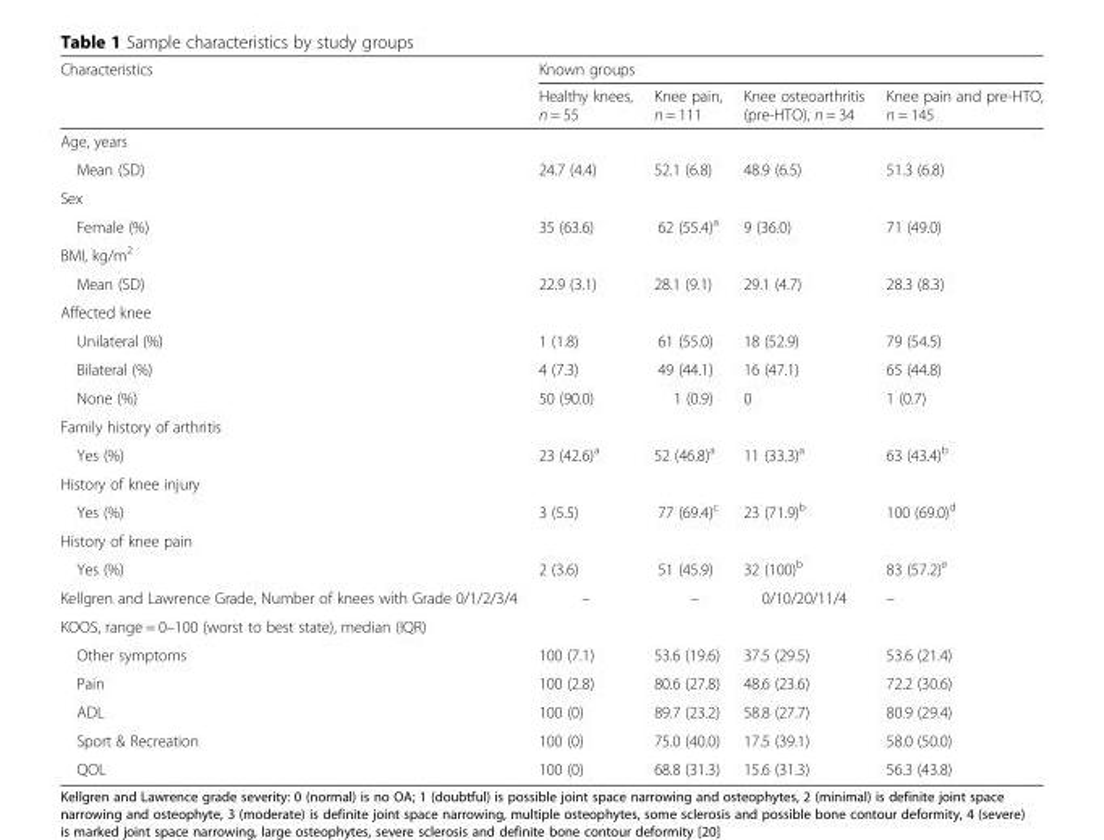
<table><thead><tr><td rowspan="2">Characteristics</td><td colspan="4">Known groups</td></tr><tr><td>Healthy knees, n = 55</td><td>Knee pain, n = 111</td><td>Knee osteoarthritis (pre-HTO), n = 34</td><td>Knee pain and pre-HTO, n = 145</td></tr></thead><tbody><tr><td colspan="5">Age, years</td></tr><tr><td>Mean (SD)</td><td>24.7 (4.4)</td><td>52.1 (6.8)</td><td>48.9 (6.5)</td><td>51.3 (6.8)</td></tr><tr><td colspan="5">Sex</td></tr><tr><td>Female (%)</td><td>35 (63.6)</td><td>62 (55.4)<sup>a</sup></td><td>9 (36.0)</td><td>71 (49.0)</td></tr><tr><td colspan="5">BMI, kg/m<sup>2</sup></td></tr><tr><td>Mean (SD)</td><td>22.9 (3.1)</td><td>28.1 (9.1)</td><td>29.1 (4.7)</td><td>28.3 (8.3)</td></tr><tr><td colspan="5">Affected knee</td></tr><tr><td>Unilateral (%)</td><td>1 (1.8)</td><td>61 (55.0)</td><td>18 (52.9)</td><td>79 (54.5)</td></tr><tr><td>Bilateral (%)</td><td>4 (7.3)</td><td>49 (44.1)</td><td>16 (47.1)</td><td>65 (44.8)</td></tr><tr><td>None (%)</td><td>50 (90.0)</td><td>1 (0.9)</td><td>0</td><td>1 (0.7)</td></tr><tr><td colspan="5">Family history of arthritis</td></tr><tr><td>Yes (%)</td><td>23 (42.6)<sup>a</sup></td><td>52 (46.8)<sup>a</sup></td><td>11 (33.3)<sup>a</sup></td><td>63 (43.4)<sup>b</sup></td></tr><tr><td colspan="5">History of knee injury</td></tr><tr><td>Yes (%)</td><td>3 (5.5)</td><td>77 (69.4)<sup>c</sup></td><td>23 (71.9)<sup>b</sup></td><td>100 (69.0)<sup>d</sup></td></tr><tr><td colspan="5">History of knee pain</td></tr><tr><td>Yes (%)</td><td>2 (3.6)</td><td>51 (45.9)</td><td>32 (100)<sup>b</sup></td><td>83 (57.2)<sup>e</sup></td></tr><tr><td>Kellgren and Lawrence Grade, Number of knees with Grade 0/1/2/3/4</td><td>–</td><td>–</td><td>0/10/20/11/4</td><td>–</td></tr><tr><td colspan="5">KOOS, range = 0–100 (worst to best state), median (IQR)</td></tr><tr><td>Other symptoms</td><td>100 (7.1)</td><td>53.6 (19.6)</td><td>37.5 (29.5)</td><td>53.6 (21.4)</td></tr><tr><td>Pain</td><td>100 (2.8)</td><td>80.6 (27.8)</td><td>48.6 (23.6)</td><td>72.2 (30.6)</td></tr><tr><td>ADL</td><td>100 (0)</td><td>89.7 (23.2)</td><td>58.8 (27.7)</td><td>80.9 (29.4)</td></tr><tr><td>Sport &amp; Recreation</td><td>100 (0)</td><td>75.0 (40.0)</td><td>17.5 (39.1)</td><td>58.0 (50.0)</td></tr><tr><td>QOL</td><td>100 (0)</td><td>68.8 (31.3)</td><td>15.6 (31.3)</td><td>56.3 (43.8)</td></tr></tbody></table>